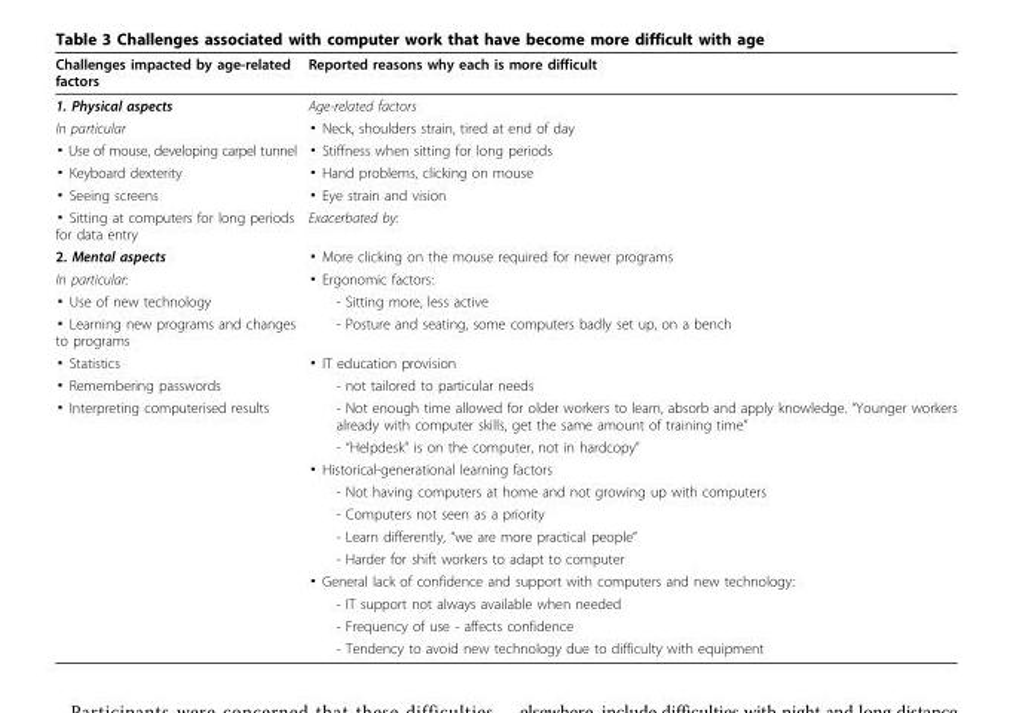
<table><thead><tr><td>Challenges impacted by age-related factors</td><td>Reported reasons why each is more difficult</td></tr></thead><tbody><tr><td>1. Physical aspects</td><td>Age-related factors</td></tr><tr><td>In particular</td><td>▪ Neck, shoulders strain, tired at end of day</td></tr><tr><td>▪ Use of mouse, developing carpel tunnel</td><td>▪ Stiffness when sitting for long periods</td></tr><tr><td>▪ Keyboard dexterity</td><td>▪ Hand problems, clicking on mouse</td></tr><tr><td>▪ Seeing screens</td><td>▪ Eye strain and vision</td></tr><tr><td>▪ Sitting at computers for long periods for data entry</td><td>Exacerbated by:</td></tr><tr><td>2. Mental aspects</td><td>▪ More clicking on the mouse required for newer programs</td></tr><tr><td>In particular:</td><td>▪ Ergonomic factors:</td></tr><tr><td>▪ Use of new technology</td><td>- Sitting more, less active</td></tr><tr><td>▪ Learning new programs and changes to programs</td><td>- Posture and seating, some computers badly set up, on a bench</td></tr><tr><td>▪ Statistics</td><td>▪ IT education provision</td></tr><tr><td>▪ Remembering passwords</td><td>- not tailored to particular needs</td></tr><tr><td rowspan="11">▪ Interpreting computerised results</td><td>- Not enough time allowed for older workers to learn, absorb and apply knowledge. “Younger workers already with computer skills, get the same amount of training time”</td></tr><tr><td>- “Helpdesk” is on the computer, not in hardcopy”</td></tr><tr><td>▪ Historical-generational learning factors</td></tr><tr><td>- Not having computers at home and not growing up with computers</td></tr><tr><td>- Computers not seen as a priority</td></tr><tr><td>- Learn differently, “we are more practical people”</td></tr><tr><td>- Harder for shift workers to adapt to computer</td></tr><tr><td>▪ General lack of confidence and support with computers and new technology:</td></tr><tr><td>- IT support not always available when needed</td></tr><tr><td>- Frequency of use - affects confidence</td></tr><tr><td>- Tendency to avoid new technology due to difficulty with equipment</td></tr></tbody></table>